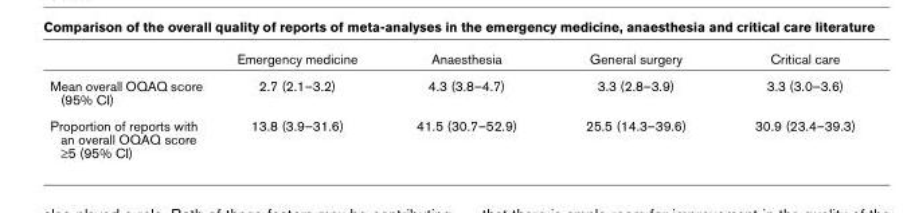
<table><thead><tr><td></td><td>Emergency medicine</td><td>Anaesthesia</td><td>General surgery</td><td>Critical care</td></tr></thead><tbody><tr><td>Mean overall OQAQ score (95% CI)</td><td>2.7 (2.1–3.2)</td><td>4.3 (3.8–4.7)</td><td>3.3 (2.8–3.9)</td><td>3.3 (3.0–3.6)</td></tr><tr><td>Proportion of reports with an overall OQAQ score ≥5 (95% CI)</td><td>13.8 (3.9–31.6)</td><td>41.5 (30.7–52.9)</td><td>25.5 (14.3–39.6)</td><td>30.9 (23.4–39.3)</td></tr></tbody></table>